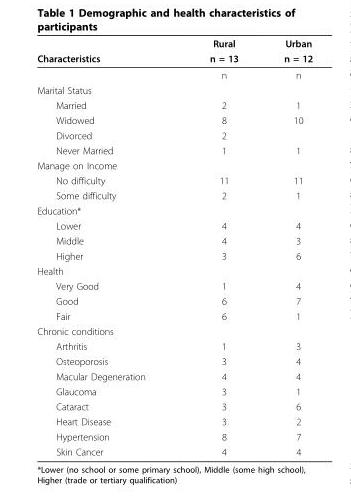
<table><thead><tr><td rowspan="2">Characteristics</td><td rowspan="2">Rural n = 13</td><td rowspan="2">Urban n = 12</td></tr><tr></tr></thead><tbody><tr><td></td><td>n</td><td>n</td></tr><tr><td colspan="3">Marital Status</td></tr><tr><td>Married</td><td>2</td><td>1</td></tr><tr><td>Widowed</td><td>8</td><td>10</td></tr><tr><td>Divorced</td><td>2</td><td></td></tr><tr><td>Never Married</td><td>1</td><td>1</td></tr><tr><td colspan="3">Manage on Income</td></tr><tr><td>No difficulty</td><td>11</td><td>11</td></tr><tr><td>Some difficulty</td><td>2</td><td>1</td></tr><tr><td colspan="3">Education*</td></tr><tr><td>Lower</td><td>4</td><td>4</td></tr><tr><td>Middle</td><td>4</td><td>3</td></tr><tr><td>Higher</td><td>3</td><td>6</td></tr><tr><td colspan="3">Health</td></tr><tr><td>Very Good</td><td>1</td><td>4</td></tr><tr><td>Good</td><td>6</td><td>7</td></tr><tr><td>Fair</td><td>6</td><td>1</td></tr><tr><td colspan="3">Chronic conditions</td></tr><tr><td>Arthritis</td><td>1</td><td>3</td></tr><tr><td>Osteoporosis</td><td>3</td><td>4</td></tr><tr><td>Macular Degeneration</td><td>4</td><td>4</td></tr><tr><td>Glaucoma</td><td>3</td><td>1</td></tr><tr><td>Cataract</td><td>3</td><td>6</td></tr><tr><td>Heart Disease</td><td>3</td><td>2</td></tr><tr><td>Hypertension</td><td>8</td><td>7</td></tr><tr><td>Skin Cancer</td><td>4</td><td>4</td></tr></tbody></table>